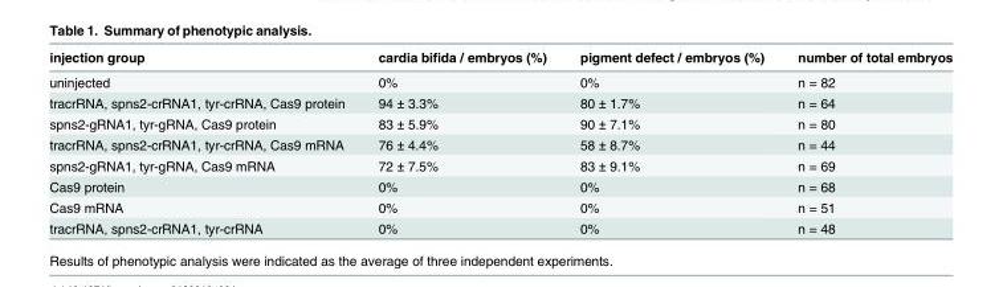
<table><thead><tr><td>injection group</td><td>cardia bifida / embryos (%)</td><td>pigment defect / embryos (%)</td><td>number of total embryos</td></tr></thead><tbody><tr><td>uninjected</td><td>0%</td><td>0%</td><td>n = 82</td></tr><tr><td>tracrRNA, spns2-crRNA1, tyr-crRNA, Cas9 protein</td><td>94 ± 3.3%</td><td>80 ± 1.7%</td><td>n = 64</td></tr><tr><td>spns2-gRNA1, tyr-gRNA, Cas9 protein</td><td>83 ± 5.9%</td><td>90 ± 7.1%</td><td>n = 80</td></tr><tr><td>tracrRNA, spns2-crRNA1, tyr-crRNA, Cas9 mRNA</td><td>76 ± 4.4%</td><td>58 ± 8.7%</td><td>n = 44</td></tr><tr><td>spns2-gRNA1, tyr-gRNA, Cas9 mRNA</td><td>72 ± 7.5%</td><td>83 ± 9.1%</td><td>n = 69</td></tr><tr><td>Cas9 protein</td><td>0%</td><td>0%</td><td>n = 68</td></tr><tr><td>Cas9 mRNA</td><td>0%</td><td>0%</td><td>n = 51</td></tr><tr><td>tracrRNA, spns2-crRNA1, tyr-crRNA</td><td>0%</td><td>0%</td><td>n = 48</td></tr></tbody></table>